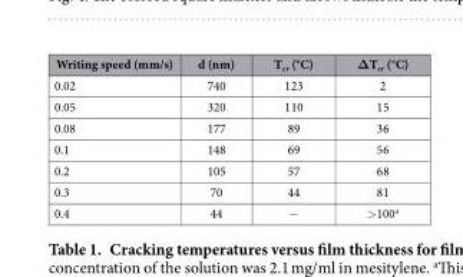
<table><thead><tr><td>Writing speed (mm/s)</td><td>d (nm)</td><td>T<sub>cr</sub> (°C)</td><td>ΔT<sub>cr</sub> (°C)</td></tr></thead><tbody><tr><td>0.02</td><td>740</td><td>123</td><td>2</td></tr><tr><td>0.05</td><td>320</td><td>110</td><td>15</td></tr><tr><td>0.08</td><td>177</td><td>89</td><td>36</td></tr><tr><td>0.1</td><td>148</td><td>69</td><td>56</td></tr><tr><td>0.2</td><td>105</td><td>57</td><td>68</td></tr><tr><td>0.3</td><td>70</td><td>44</td><td>81</td></tr><tr><td>0.4</td><td>44</td><td>−</td><td>&gt;100<sup>a</sup></td></tr></tbody></table>